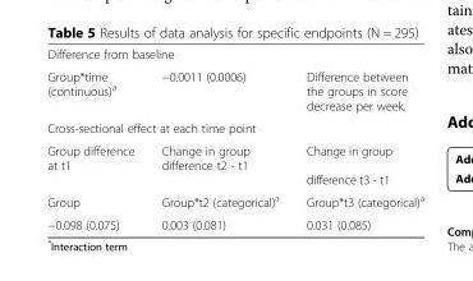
<table><tbody><tr><td colspan="3">Difference from baseline</td></tr><tr><td>Group*time (continuous)<sup>a</sup></td><td>−0.0011 (0.0006)</td><td>Difference between the groups in score decrease per week.</td></tr><tr><td colspan="3">Cross-sectional effect at each time point</td></tr><tr><td>Group difference at t1</td><td>Change in group difference t2 - t1</td><td>Change in group difference t3 - t1</td></tr><tr><td>Group</td><td>Group*t2 (categorical)<sup>a</sup></td><td>Group*t3 (categorical)<sup>a</sup></td></tr><tr><td>−0.098 (0.075)</td><td>0.003 (0.081)</td><td>0.031 (0.085)</td></tr></tbody></table>